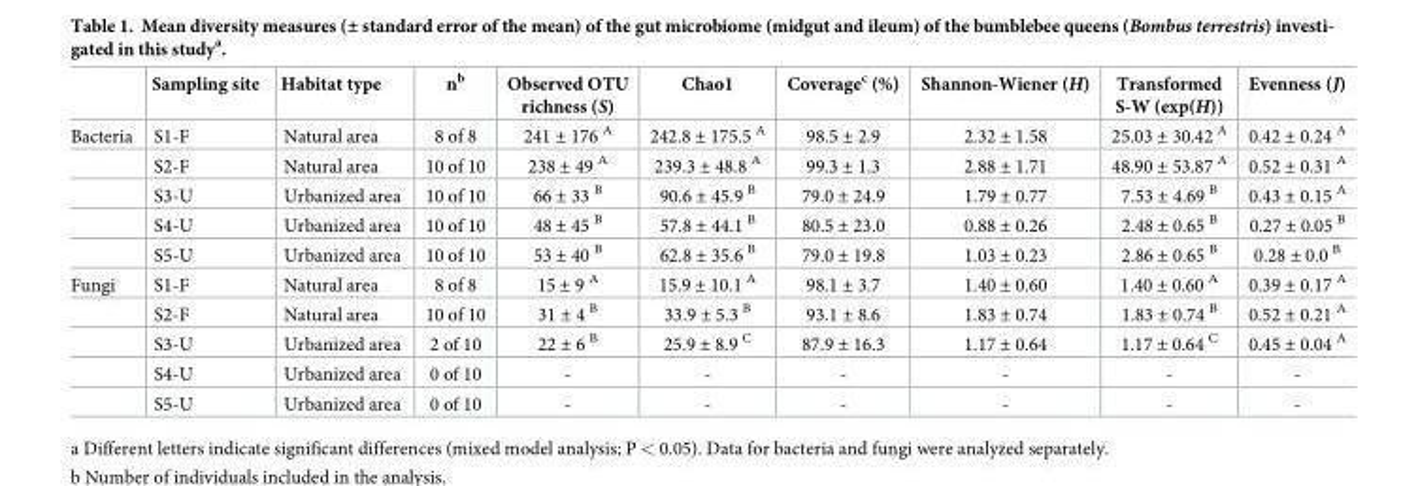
<table><thead><tr><td></td><td>Sampling site</td><td>Habitat type</td><td>n<sup>b</sup></td><td>Observed OTU richness (S)</td><td>Chao1</td><td>Coverage<sup>c</sup> (%)</td><td>Shannon-Wiener (H)</td><td>Transformed S-W (exp(H))</td><td>Evenness (J)</td></tr></thead><tbody><tr><td rowspan="5">Bacteria</td><td>S1-F</td><td>Natural area</td><td>8 of 8</td><td>241 ± 176 <sup>A</sup></td><td>242.8 ± 175.5 <sup>A</sup></td><td>98.5 ± 2.9</td><td>2.32 ± 1.58</td><td>25.03 ± 30.42 <sup>A</sup></td><td>0.42 ± 0.24 <sup>A</sup></td></tr><tr><td>S2-F</td><td>Natural area</td><td>10 of 10</td><td>238 ± 49 <sup>A</sup></td><td>239.3 ± 48.8 <sup>A</sup></td><td>99.3 ± 1.3</td><td>2.88 ± 1.71</td><td>48.90 ± 53.87 <sup>A</sup></td><td>0.52 ± 0.31 <sup>A</sup></td></tr><tr><td>S3-U</td><td>Urbanized area</td><td>10 of 10</td><td>66 ± 33 <sup>B</sup></td><td>90.6 ± 45.9 <sup>B</sup></td><td>79.0 ± 24.9</td><td>1.79 ± 0.77</td><td>7.53 ± 4.69 <sup>B</sup></td><td>0.43 ± 0.15 <sup>A</sup></td></tr><tr><td>S4-U</td><td>Urbanized area</td><td>10 of 10</td><td>48 ± 45 <sup>B</sup></td><td>57.8 ± 44.1 <sup>B</sup></td><td>80.5 ± 23.0</td><td>0.88 ± 0.26</td><td>2.48 ± 0.65 <sup>B</sup></td><td>0.27 ± 0.05 <sup>B</sup></td></tr><tr><td>S5-U</td><td>Urbanized area</td><td>10 of 10</td><td>53 ± 40 <sup>B</sup></td><td>62.8 ± 35.6 <sup>B</sup></td><td>79.0 ± 19.8</td><td>1.03 ± 0.23</td><td>2.86 ± 0.65 <sup>B</sup></td><td>0.28 ± 0.0 <sup>B</sup></td></tr><tr><td rowspan="5">Fungi</td><td>S1-F</td><td>Natural area</td><td>8 of 8</td><td>15 ± 9 <sup>A</sup></td><td>15.9 ± 10.1 <sup>A</sup></td><td>98.1 ± 3.7</td><td>1.40 ± 0.60</td><td>1.40 ± 0.60 <sup>A</sup></td><td>0.39 ± 0.17 <sup>A</sup></td></tr><tr><td>S2-F</td><td>Natural area</td><td>10 of 10</td><td>31 ± 4 <sup>B</sup></td><td>33.9 ± 5.3 <sup>B</sup></td><td>93.1 ± 8.6</td><td>1.83 ± 0.74</td><td>1.83 ± 0.74 <sup>B</sup></td><td>0.52 ± 0.21 <sup>A</sup></td></tr><tr><td>S3-U</td><td>Urbanized area</td><td>2 of 10</td><td>22 ± 6 <sup>B</sup></td><td>25.9 ± 8.9 <sup>C</sup></td><td>87.9 ± 16.3</td><td>1.17 ± 0.64</td><td>1.17 ± 0.64 <sup>C</sup></td><td>0.45 ± 0.04 <sup>A</sup></td></tr><tr><td>S4-U</td><td>Urbanized area</td><td>0 of 10</td><td>-</td><td>-</td><td>-</td><td>-</td><td>-</td><td>-</td></tr><tr><td>S5-U</td><td>Urbanized area</td><td>0 of 10</td><td>-</td><td>-</td><td>-</td><td>-</td><td>-</td><td>-</td></tr></tbody></table>